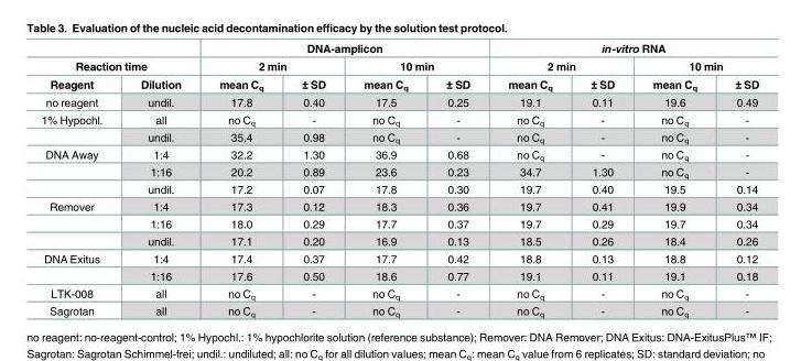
<table><thead><tr><td></td><td></td><td colspan="4">DNA-amplicon</td><td colspan="4">in-vitro RNA</td></tr><tr><td colspan="2">Reaction time</td><td colspan="2">2 min</td><td colspan="2">10 min</td><td colspan="2">2 min</td><td colspan="2">10 min</td></tr><tr><td>Reagent</td><td>Dilution</td><td>mean C<sub>q</sub></td><td>± SD</td><td>mean C<sub>q</sub></td><td>± SD</td><td>mean C<sub>q</sub></td><td>± SD</td><td>mean C<sub>q</sub></td><td>± SD</td></tr></thead><tbody><tr><td>no reagent</td><td>undil.</td><td>17.8</td><td>0.40</td><td>17.5</td><td>0.25</td><td>19.1</td><td>0.11</td><td>19.6</td><td>0.49</td></tr><tr><td rowspan="2">1% Hypochl.</td><td>all</td><td>no C<sub>q</sub></td><td>-</td><td>no C<sub>q</sub></td><td>-</td><td>no C<sub>q</sub></td><td>-</td><td>no C<sub>q</sub></td><td>-</td></tr><tr><td>undil.</td><td>35.4</td><td>0.98</td><td>no C<sub>q</sub></td><td>-</td><td>no C<sub>q</sub></td><td>-</td><td>no C<sub>q</sub></td><td>-</td></tr><tr><td rowspan="3">DNA Away</td><td>1:4</td><td>32.2</td><td>1.30</td><td>36.9</td><td>0.68</td><td>no C<sub>q</sub></td><td>-</td><td>no C<sub>q</sub></td><td>-</td></tr><tr><td>1:16</td><td>20.2</td><td>0.89</td><td>23.6</td><td>0.23</td><td>34.7</td><td>1.30</td><td>no C<sub>q</sub></td><td>-</td></tr><tr><td>undil.</td><td>17.2</td><td>0.07</td><td>17.8</td><td>0.30</td><td>19.7</td><td>0.40</td><td>19.5</td><td>0.14</td></tr><tr><td rowspan="3">Remover</td><td>1:4</td><td>17.3</td><td>0.12</td><td>18.3</td><td>0.36</td><td>19.7</td><td>0.41</td><td>19.9</td><td>0.34</td></tr><tr><td>1:16</td><td>18.0</td><td>0.29</td><td>17.7</td><td>0.37</td><td>19.7</td><td>0.29</td><td>19.7</td><td>0.34</td></tr><tr><td>undil.</td><td>17.1</td><td>0.20</td><td>16.9</td><td>0.13</td><td>18.5</td><td>0.26</td><td>18.4</td><td>0.26</td></tr><tr><td rowspan="2">DNA Exitus</td><td>1:4</td><td>17.4</td><td>0.37</td><td>17.7</td><td>0.42</td><td>18.8</td><td>0.13</td><td>18.8</td><td>0.12</td></tr><tr><td>1:16</td><td>17.6</td><td>0.50</td><td>18.6</td><td>0.77</td><td>19.1</td><td>0.11</td><td>19.1</td><td>0.18</td></tr><tr><td>LTK-008</td><td>all</td><td>no C<sub>q</sub></td><td>-</td><td>no C<sub>q</sub></td><td>-</td><td>no C<sub>q</sub></td><td>-</td><td>no C<sub>q</sub></td><td>-</td></tr><tr><td>Sagrotan</td><td>all</td><td>no C<sub>q</sub></td><td>-</td><td>no C<sub>q</sub></td><td>-</td><td>no C<sub>q</sub></td><td>-</td><td>no C<sub>q</sub></td><td>-</td></tr></tbody></table>